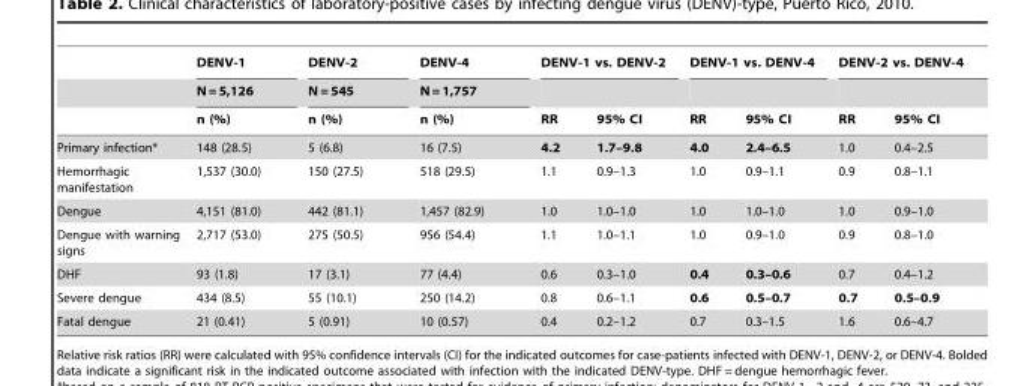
<table><thead><tr><td rowspan="3"></td><td rowspan="3">DENV-1 N = 5,126 n (%)</td><td rowspan="3">DENV-2 N = 545 n (%)</td><td rowspan="3">DENV-4 N = 1,757 n (%)</td><td colspan="2">DENV-1 vs. DENV-2</td><td colspan="2">DENV-1 vs. DENV-4</td><td colspan="2">DENV-2 vs. DENV-4</td></tr><tr><td rowspan="2">RR</td><td rowspan="2">95% CI</td><td rowspan="2">RR</td><td rowspan="2">95% CI</td><td rowspan="2">RR</td><td rowspan="2">95% CI</td></tr><tr></tr></thead><tbody><tr><td>Primary infection*</td><td>148 (28.5)</td><td>5 (6.8)</td><td>16 (7.5)</td><td>4.2</td><td>1.7–9.8</td><td>4.0</td><td>2.4–6.5</td><td>1.0</td><td>0.4–2.5</td></tr><tr><td>Hemorrhagic manifestation</td><td>1,537 (30.0)</td><td>150 (27.5)</td><td>518 (29.5)</td><td>1.1</td><td>0.9–1.3</td><td>1.0</td><td>0.9–1.1</td><td>0.9</td><td>0.8–1.1</td></tr><tr><td>Dengue</td><td>4,151 (81.0)</td><td>442 (81.1)</td><td>1,457 (82.9)</td><td>1.0</td><td>1.0–1.0</td><td>1.0</td><td>1.0–1.0</td><td>1.0</td><td>0.9–1.0</td></tr><tr><td>Dengue with warning signs</td><td>2,717 (53.0)</td><td>275 (50.5)</td><td>956 (54.4)</td><td>1.1</td><td>1.0–1.1</td><td>1.0</td><td>0.9–1.0</td><td>0.9</td><td>0.8–1.0</td></tr><tr><td>DHF</td><td>93 (1.8)</td><td>17 (3.1)</td><td>77 (4.4)</td><td>0.6</td><td>0.3–1.0</td><td>0.4</td><td>0.3–0.6</td><td>0.7</td><td>0.4–1.2</td></tr><tr><td>Severe dengue</td><td>434 (8.5)</td><td>55 (10.1)</td><td>250 (14.2)</td><td>0.8</td><td>0.6–1.1</td><td>0.6</td><td>0.5–0.7</td><td>0.7</td><td>0.5–0.9</td></tr><tr><td>Fatal dengue</td><td>21 (0.41)</td><td>5 (0.91)</td><td>10 (0.57)</td><td>0.4</td><td>0.2–1.2</td><td>0.7</td><td>0.3–1.5</td><td>1.6</td><td>0.6–4.7</td></tr></tbody></table>